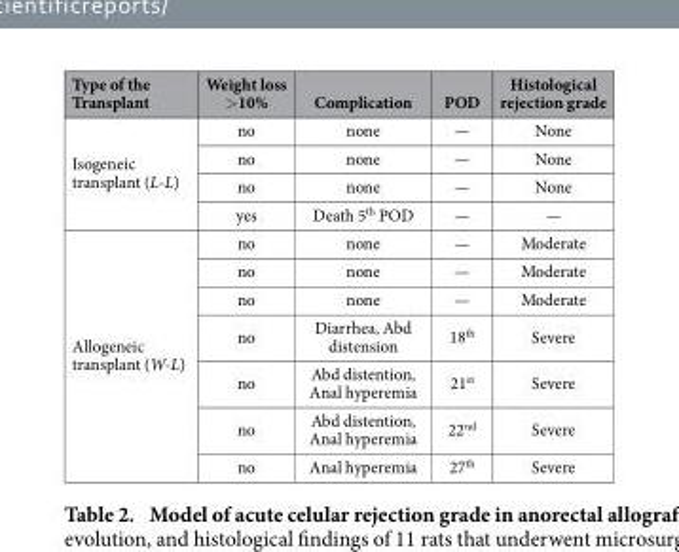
<table><thead><tr><td>Type of the Transplant</td><td>Weight loss &gt; 10%</td><td>Complication</td><td>POD</td><td>Histological rejection grade</td></tr></thead><tbody><tr><td rowspan="4">Isogeneic transplant (L-L)</td><td>no</td><td>none</td><td>—</td><td>None</td></tr><tr><td>no</td><td>none</td><td>—</td><td>None</td></tr><tr><td>no</td><td>none</td><td>—</td><td>None</td></tr><tr><td>yes</td><td>Death 5<sup>th</sup> POD</td><td>—</td><td>—</td></tr><tr><td rowspan="7">Allogeneic transplant (W-L)</td><td>no</td><td>none</td><td>—</td><td>Moderate</td></tr><tr><td>no</td><td>none</td><td>—</td><td>Moderate</td></tr><tr><td>no</td><td>none</td><td>—</td><td>Moderate</td></tr><tr><td>no</td><td>Diarrhea, Abd distension</td><td>18<sup>th</sup></td><td>Severe</td></tr><tr><td>no</td><td>Abd distention, Anal hyperemia</td><td>21<sup>st</sup></td><td>Severe</td></tr><tr><td>no</td><td>Abd distention, Anal hyperemia</td><td>22<sup>nd</sup></td><td>Severe</td></tr><tr><td>no</td><td>Anal hyperemia</td><td>27<sup>th</sup></td><td>Severe</td></tr></tbody></table>